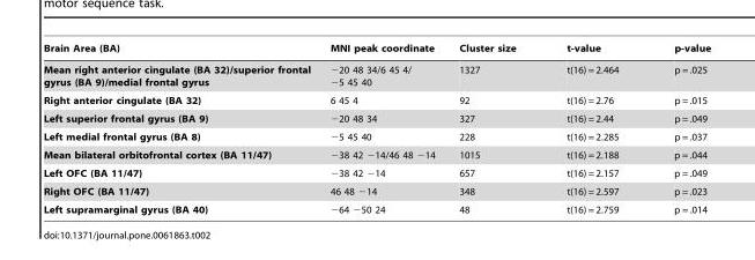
<table><thead><tr><td>Brain Area (BA)</td><td>MNI peak coordinate</td><td>Cluster size</td><td>t-value</td><td>p-value</td></tr></thead><tbody><tr><td>Mean right anterior cingulate (BA 32)/superior frontal gyrus (BA 9)/medial frontal gyrus</td><td>−20 48 34/6 45 4/ −5 45 40</td><td>1327</td><td>t(16) = 2.464</td><td>p = .025</td></tr><tr><td>Right anterior cingulate (BA 32)</td><td>6 45 4</td><td>92</td><td>t(16) = 2.76</td><td>p = .015</td></tr><tr><td>Left superior frontal gyrus (BA 9)</td><td>−20 48 34</td><td>327</td><td>t(16) = 2.44</td><td>p = .049</td></tr><tr><td>Left medial frontal gyrus (BA 8)</td><td>−5 45 40</td><td>228</td><td>t(16) = 2.285</td><td>p = .037</td></tr><tr><td>Mean bilateral orbitofrontal cortex (BA 11/47)</td><td>−38 42 −14/46 48 −14</td><td>1015</td><td>t(16) = 2.188</td><td>p = .044</td></tr><tr><td>Left OFC (BA 11/47)</td><td>−38 42 −14</td><td>657</td><td>t(16) = 2.157</td><td>p = .049</td></tr><tr><td>Right OFC (BA 11/47)</td><td>46 48 −14</td><td>348</td><td>t(16) = 2.597</td><td>p = .023</td></tr><tr><td>Left supramarginal gyrus (BA 40)</td><td>−64 −50 24</td><td>48</td><td>t(16) = 2.759</td><td>p = .014</td></tr></tbody></table>